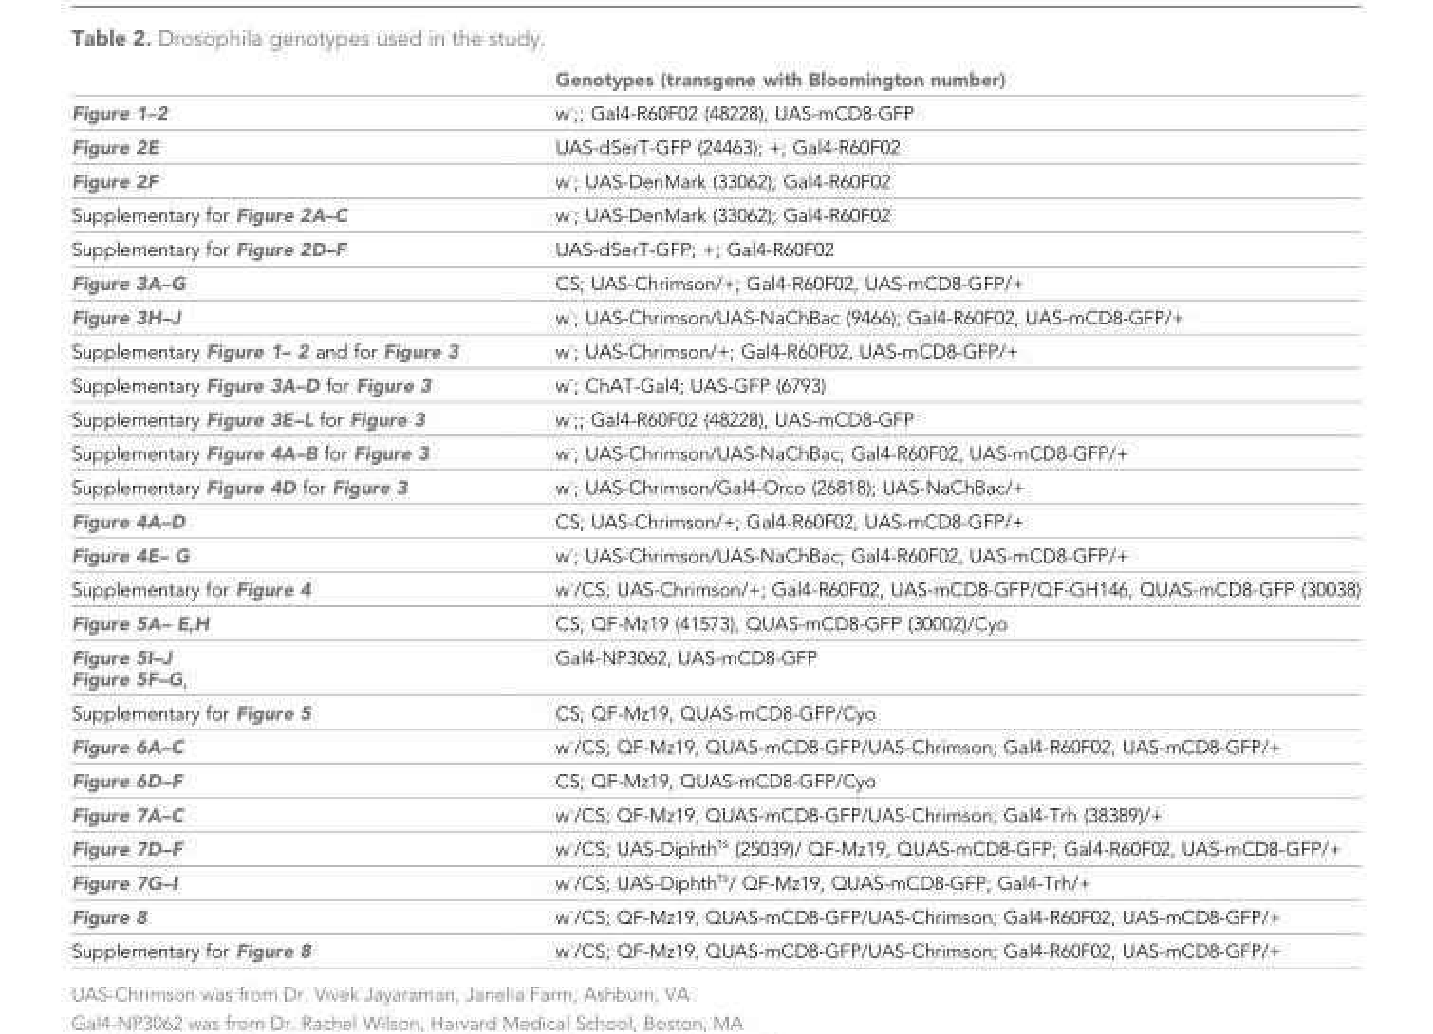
<table><thead><tr><td></td><td>Genotypes (transgene with Bloomington number)</td></tr></thead><tbody><tr><td>Figure 1–2</td><td>w<sup>-</sup>;; Gal4-R60F02 (48228), UAS-mCD8-GFP</td></tr><tr><td>Figure 2E</td><td>UAS-dSerT-GFP (24463); +; Gal4-R60F02</td></tr><tr><td>Figure 2F</td><td>w<sup>-</sup>; UAS-DenMark (33062); Gal4-R60F02</td></tr><tr><td>Supplementary for Figure 2A–C</td><td>w<sup>-</sup>; UAS-DenMark (33062); Gal4-R60F02</td></tr><tr><td>Supplementary for Figure 2D–F</td><td>UAS-dSerT-GFP; +; Gal4-R60F02</td></tr><tr><td>Figure 3A–G</td><td>CS; UAS-Chrimson/+; Gal4-R60F02, UAS-mCD8-GFP/+</td></tr><tr><td>Figure 3H–J</td><td>w<sup>-</sup>; UAS-Chrimson/UAS-NaChBac (9466); Gal4-R60F02, UAS-mCD8-GFP/+</td></tr><tr><td>Supplementary Figure 1– 2 and for Figure 3</td><td>w<sup>-</sup>; UAS-Chrimson/+; Gal4-R60F02, UAS-mCD8-GFP/+</td></tr><tr><td>Supplementary Figure 3A–D for Figure 3</td><td>w<sup>-</sup>; ChAT-Gal4; UAS-GFP (6793)</td></tr><tr><td>Supplementary Figure 3E–L for Figure 3</td><td>w<sup>-</sup>;; Gal4-R60F02 (48228), UAS-mCD8-GFP</td></tr><tr><td>Supplementary Figure 4A–B for Figure 3</td><td>w<sup>-</sup>; UAS-Chrimson/UAS-NaChBac; Gal4-R60F02, UAS-mCD8-GFP/+</td></tr><tr><td>Supplementary Figure 4D for Figure 3</td><td>w<sup>-</sup>; UAS-Chrimson/Gal4-Orco (26818); UAS-NaChBac/+</td></tr><tr><td>Figure 4A–D</td><td>CS; UAS-Chrimson/+; Gal4-R60F02, UAS-mCD8-GFP/+</td></tr><tr><td>Figure 4E– G</td><td>w<sup>-</sup>; UAS-Chrimson/UAS-NaChBac; Gal4-R60F02, UAS-mCD8-GFP/+</td></tr><tr><td>Supplementary for Figure 4</td><td>w<sup>-</sup>/CS; UAS-Chrimson/+; Gal4-R60F02, UAS-mCD8-GFP/QF-GH146, QUAS-mCD8-GFP (30038)</td></tr><tr><td>Figure 5A– E,H</td><td>CS; QF-Mz19 (41573), QUAS-mCD8-GFP (30002)/Cyo</td></tr><tr><td>Figure 5I–J Figure 5F–G,</td><td>Gal4-NP3062, UAS-mCD8-GFP</td></tr><tr><td>Supplementary for Figure 5</td><td>CS; QF-Mz19, QUAS-mCD8-GFP/Cyo</td></tr><tr><td>Figure 6A–C</td><td>w<sup>-</sup>/CS; QF-Mz19, QUAS-mCD8-GFP/UAS-Chrimson; Gal4-R60F02, UAS-mCD8-GFP/+</td></tr><tr><td>Figure 6D–F</td><td>CS; QF-Mz19, QUAS-mCD8-GFP/Cyo</td></tr><tr><td>Figure 7A–C</td><td>w<sup>-</sup>/CS; QF-Mz19, QUAS-mCD8-GFP/UAS-Chrimson; Gal4-Trh (38389)/+</td></tr><tr><td>Figure 7D–F</td><td>w<sup>-</sup>/CS; UAS-Diphth<sup>ts</sup> (25039)/ QF-Mz19, QUAS-mCD8-GFP; Gal4-R60F02, UAS-mCD8-GFP/+</td></tr><tr><td>Figure 7G–I</td><td>w<sup>-</sup>/CS; UAS-Diphth<sup>ts</sup>/ QF-Mz19, QUAS-mCD8-GFP; Gal4-Trh/+</td></tr><tr><td>Figure 8</td><td>w<sup>-</sup>/CS; QF-Mz19, QUAS-mCD8-GFP/UAS-Chrimson; Gal4-R60F02, UAS-mCD8-GFP/+</td></tr><tr><td>Supplementary for Figure 8</td><td>w<sup>-</sup>/CS; QF-Mz19, QUAS-mCD8-GFP/UAS-Chrimson; Gal4-R60F02, UAS-mCD8-GFP/+</td></tr></tbody></table>